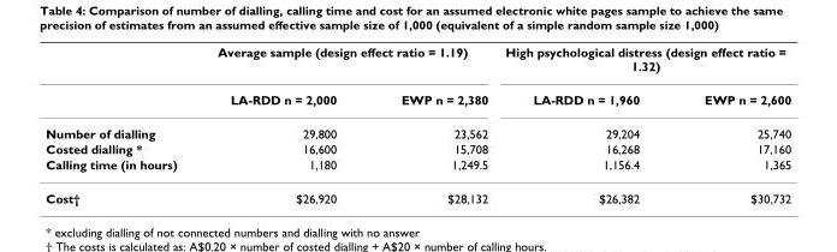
<table><thead><tr><td rowspan="5">Number of dialling Costed dialling * Calling time (in hours)</td><td colspan="2">Average sample (design effect ratio = 1.19)</td><td colspan="2">High psychological distress (design effect ratio = 1.32)</td></tr><tr><td rowspan="4">LA-RDD n = 2,000 29,800 16,600 1,180</td><td rowspan="4">EWP n = 2,380 23,562 15,708 1,249.5</td><td rowspan="4">LA-RDD n = 1,960 29,204 16,268 1,156.4</td><td rowspan="4">EWP n = 2,600 25,740 17,160 1,365</td></tr><tr></tr><tr></tr><tr></tr></thead><tbody><tr><td>Cost†</td><td>$26,920</td><td>$28,132</td><td>$26,382</td><td>$30,732</td></tr></tbody></table>